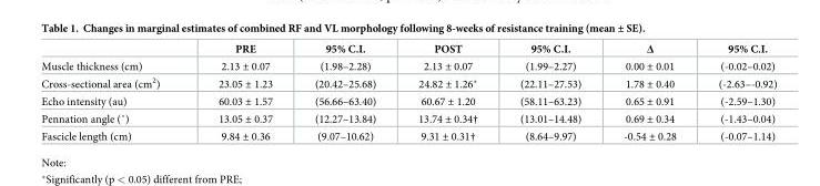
<table><thead><tr><td></td><td>PRE</td><td>95% C.I.</td><td>POST</td><td>95% C.I.</td><td>Δ</td><td>95% C.I.</td></tr></thead><tbody><tr><td>Muscle thickness (cm)</td><td>2.13 ± 0.07</td><td>(1.98–2.28)</td><td>2.13 ± 0.07</td><td>(1.99–2.27)</td><td>0.00 ± 0.01</td><td>(-0.02–0.02)</td></tr><tr><td>Cross-sectional area (cm<sup>2</sup>)</td><td>23.05 ± 1.23</td><td>(20.42–25.68)</td><td>24.82 ± 1.26*</td><td>(22.11–27.53)</td><td>1.78 ± 0.40</td><td>(-2.63–-0.92)</td></tr><tr><td>Echo intensity (au)</td><td>60.03 ± 1.57</td><td>(56.66–63.40)</td><td>60.67 ± 1.20</td><td>(58.11–63.23)</td><td>0.65 ± 0.91</td><td>(-2.59–1.30)</td></tr><tr><td>Pennation angle (˚)</td><td>13.05 ± 0.37</td><td>(12.27–13.84)</td><td>13.74 ± 0.34†</td><td>(13.01–14.48)</td><td>0.69 ± 0.34</td><td>(-1.43–0.04)</td></tr><tr><td>Fascicle length (cm)</td><td>9.84 ± 0.36</td><td>(9.07–10.62)</td><td>9.31 ± 0.31†</td><td>(8.64–9.97)</td><td>-0.54 ± 0.28</td><td>(-0.07–1.14)</td></tr></tbody></table>